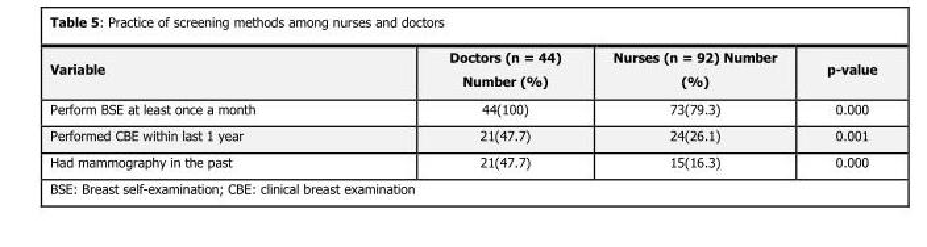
<table><thead><tr><td>Variable</td><td>Doctors (n = 44) Number (%)</td><td>Nurses (n = 92) Number (%)</td><td>p-value</td></tr></thead><tbody><tr><td>Perform BSE at least once a month</td><td>44(100)</td><td>73(79.3)</td><td>0.000</td></tr><tr><td>Performed CBE within last 1 year</td><td>21(47.7)</td><td>24(26.1)</td><td>0.001</td></tr><tr><td>Had mammography in the past</td><td>21(47.7)</td><td>15(16.3)</td><td>0.000</td></tr><tr><td colspan="4">BSE: Breast self-examination; CBE: clinical breast examination</td></tr></tbody></table>